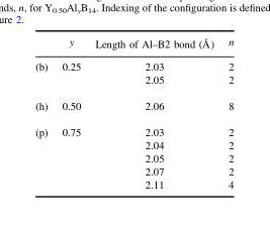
<table><thead><tr><td></td><td>y</td><td>Length of Al–B2 bond (Å)</td><td>n</td></tr></thead><tbody><tr><td rowspan="2">(b)</td><td>0.25</td><td>2.03</td><td>2</td></tr><tr><td></td><td>2.05</td><td>2</td></tr><tr><td>(h)</td><td>0.50</td><td>2.06</td><td>8</td></tr><tr><td rowspan="5">(p)</td><td>0.75</td><td>2.03</td><td>2</td></tr><tr><td></td><td>2.04</td><td>2</td></tr><tr><td></td><td>2.05</td><td>2</td></tr><tr><td></td><td>2.07</td><td>2</td></tr><tr><td></td><td>2.11</td><td>4</td></tr></tbody></table>